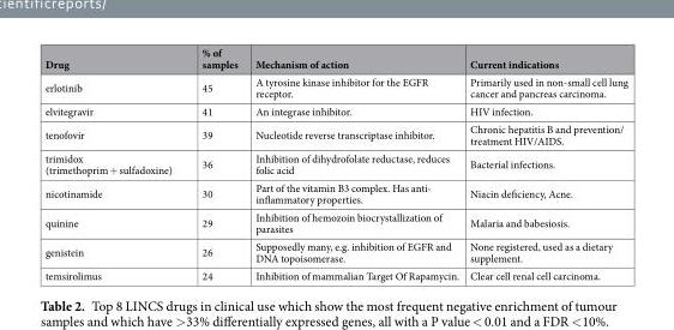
<table><thead><tr><td>Drug</td><td>% of samples</td><td>Mechanism of action</td><td>Current indications</td></tr></thead><tbody><tr><td>erlotinib</td><td>45</td><td>A tyrosine kinase inhibitor for the EGFR receptor.</td><td>Primarily used in non-small cell lung cancer and pancreas carcinoma.</td></tr><tr><td>elvitegravir</td><td>41</td><td>An integrase inhibitor.</td><td>HIV infection.</td></tr><tr><td>tenofovir</td><td>39</td><td>Nucleotide reverse transcriptase inhibitor.</td><td>Chronic hepatitis B and prevention/ treatment HIV/AIDS.</td></tr><tr><td>trimidox (trimethoprim + sulfadoxine)</td><td>36</td><td>Inhibition of dihydrofolate reductase, reduces folic acid</td><td>Bacterial infections.</td></tr><tr><td>nicotinamide</td><td>30</td><td>Part of the vitamin B3 complex. Has anti- inflammatory properties.</td><td>Niacin deficiency, Acne.</td></tr><tr><td>quinine</td><td>29</td><td>Inhibition of hemozoin biocrystallization of parasites</td><td>Malaria and babesiosis.</td></tr><tr><td>genistein</td><td>26</td><td>Supposedly many, e.g. inhibition of EGFR and DNA topoisomerase.</td><td>None registered, used as a dietary supplement.</td></tr><tr><td>temsirolimus</td><td>24</td><td>Inhibition of mammalian Target Of Rapamycin.</td><td>Clear cell renal cell carcinoma.</td></tr></tbody></table>